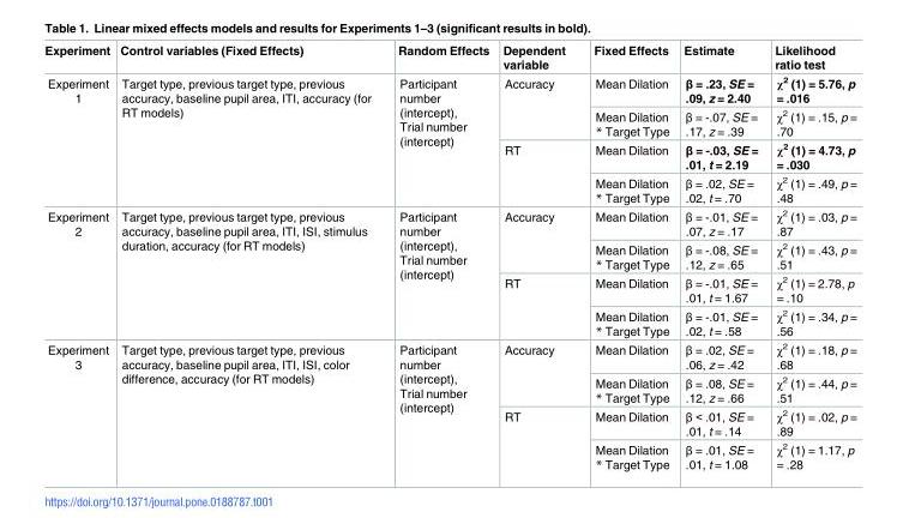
<table><thead><tr><td>Experiment</td><td>Control variables (Fixed Effects)</td><td>Random Effects</td><td>Dependent variable</td><td>Fixed Effects</td><td>Estimate</td><td>Likelihood ratio test</td></tr></thead><tbody><tr><td rowspan="4">Experiment 1</td><td rowspan="4">Target type, previous target type, previous accuracy, baseline pupil area, ITI, accuracy (for RT models)</td><td rowspan="4">Participant number (intercept), Trial number (intercept)</td><td rowspan="2">Accuracy</td><td>Mean Dilation</td><td>β = .23, SE = .09, z = 2.40</td><td>χ<sup>2</sup> (1) = 5.76, p = .016</td></tr><tr><td>Mean Dilation * Target Type</td><td>β = -.07, SE = .17, z = .39</td><td>χ<sup>2</sup> (1) = .15, p = .70</td></tr><tr><td rowspan="2">RT</td><td>Mean Dilation</td><td>β = -.03, SE = .01, t = 2.19</td><td>χ<sup>2</sup> (1) = 4.73, p = .030</td></tr><tr><td>Mean Dilation * Target Type</td><td>β = .02, SE = .02, t = .70</td><td>χ<sup>2</sup> (1) = .49, p = .48</td></tr><tr><td rowspan="4">Experiment 2</td><td rowspan="4">Target type, previous target type, previous accuracy, baseline pupil area, ITI, ISI, stimulus duration, accuracy (for RT models)</td><td rowspan="4">Participant number (intercept), Trial number (intercept)</td><td rowspan="2">Accuracy</td><td>Mean Dilation</td><td>β = -.01, SE = .07, z = .17</td><td>χ<sup>2</sup> (1) = .03, p = .87</td></tr><tr><td>Mean Dilation * Target Type</td><td>β = -.08, SE = .12, z = .65</td><td>χ<sup>2</sup> (1) = .43, p = .51</td></tr><tr><td rowspan="2">RT</td><td>Mean Dilation</td><td>β = -.01, SE = .01, t = 1.67</td><td>χ<sup>2</sup> (1) = 2.78, p = .10</td></tr><tr><td>Mean Dilation * Target Type</td><td>β = -.01, SE = .02, t = .58</td><td>χ<sup>2</sup> (1) = .34, p = .56</td></tr><tr><td rowspan="4">Experiment 3</td><td rowspan="4">Target type, previous target type, previous accuracy, baseline pupil area, ITI, ISI, color difference, accuracy (for RT models)</td><td rowspan="4">Participant number (intercept), Trial number (intercept)</td><td rowspan="2">Accuracy</td><td>Mean Dilation</td><td>β = .02, SE = .06, z = .42</td><td>χ<sup>2</sup> (1) = .18, p = .68</td></tr><tr><td>Mean Dilation * Target Type</td><td>β = .08, SE = .12, z = .66</td><td>χ<sup>2</sup> (1) = .44, p = .51</td></tr><tr><td rowspan="2">RT</td><td>Mean Dilation</td><td>β &lt; .01, SE = .01, t = .14</td><td>χ<sup>2</sup> (1) = .02, p = .89</td></tr><tr><td>Mean Dilation * Target Type</td><td>β = .01, SE = .01, t = 1.08</td><td>χ<sup>2</sup> (1) = 1.17, p = .28</td></tr></tbody></table>